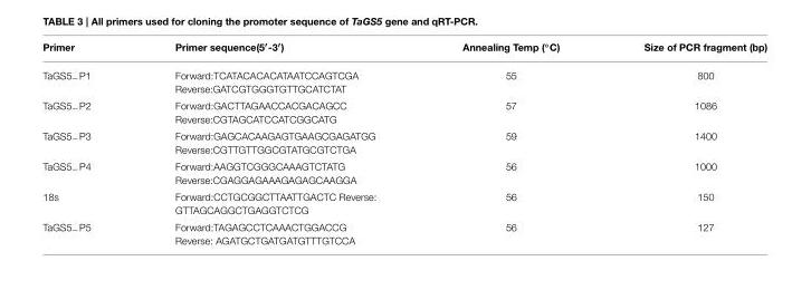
<table><thead><tr><td>Primer</td><td>Primer sequence(5′-3′)</td><td>Annealing Temp (◦C)</td><td>Size of PCR fragment (bp)</td></tr></thead><tbody><tr><td>TaGS5<sub>−</sub>P1</td><td>Forward:TCATACACACATAATCCAGTCGA Reverse:GATCGTGGGTGTTGCATCTAT</td><td>55</td><td>800</td></tr><tr><td>TaGS5<sub>−</sub>P2</td><td>Forward:GACTTAGAACCACGACAGCC Reverse:CGTAGCATCCATCGGCATG</td><td>57</td><td>1086</td></tr><tr><td>TaGS5<sub>−</sub>P3</td><td>Forward:GAGCACAAGAGTGAAGCGAGATGG Reverse:CGTTGTTGGCGTATGCGTCTGA</td><td>59</td><td>1400</td></tr><tr><td>TaGS5<sub>−</sub>P4</td><td>Forward:AAGGTCGGGCAAAGTCTATG Reverse:CGAGGAGAAAGAGAGCAAGGA</td><td>56</td><td>1000</td></tr><tr><td>18s</td><td>Forward:CCTGCGGCTTAATTGACTC Reverse: GTTAGCAGGCTGAGGTCTCG</td><td>56</td><td>150</td></tr><tr><td>TaGS5<sub>−</sub>P5</td><td>Forward:TAGAGCCTCAAACTGGACCG Reverse: AGATGCTGATGATGTTTGTCCA</td><td>56</td><td>127</td></tr></tbody></table>